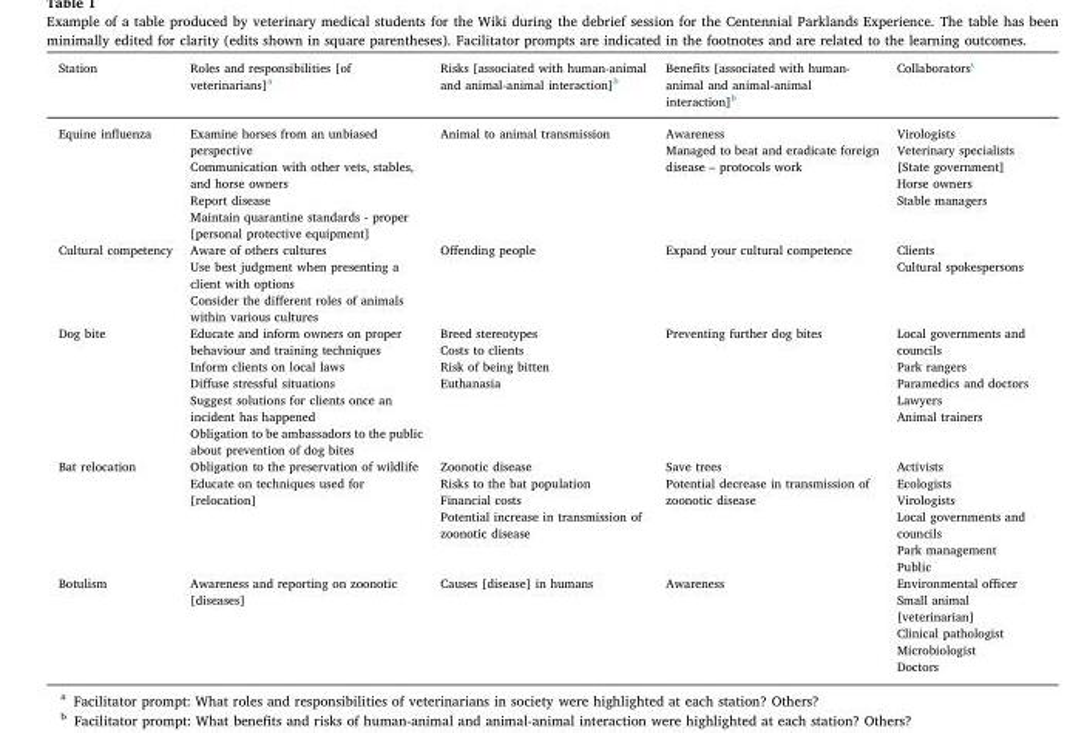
<table><thead><tr><td>Station</td><td>Roles and responsibilities [of veterinarians]<sup>a</sup></td><td>Risks [associated with human-animal and animal-animal interaction]<sup>b</sup></td><td>Benefits [associated with human- animal and animal-animal interaction]<sup>b</sup></td><td>Collaborators<sup>c</sup></td></tr></thead><tbody><tr><td>Equine influenza</td><td>Examine horses from an unbiased perspective Communication with other vets, stables, and horse owners Report disease Maintain quarantine standards - proper [personal protective equipment]</td><td>Animal to animal transmission</td><td>Awareness Managed to beat and eradicate foreign disease – protocols work</td><td>Virologists Veterinary specialists [State government] Horse owners Stable managers</td></tr><tr><td>Cultural competency</td><td>Aware of others cultures Use best judgment when presenting a client with options Consider the different roles of animals within various cultures</td><td>Offending people</td><td>Expand your cultural competence</td><td>Clients Cultural spokespersons</td></tr><tr><td>Dog bite</td><td>Educate and inform owners on proper behaviour and training techniques Inform clients on local laws Diffuse stressful situations Suggest solutions for clients once an incident has happened Obligation to be ambassadors to the public about prevention of dog bites</td><td>Breed stereotypes Costs to clients Risk of being bitten Euthanasia</td><td>Preventing further dog bites</td><td>Local governments and councils Park rangers Paramedics and doctors Lawyers Animal trainers</td></tr><tr><td>Bat relocation</td><td>Obligation to the preservation of wildlife Educate on techniques used for [relocation]</td><td>Zoonotic disease Risks to the bat population Financial costs Potential increase in transmission of zoonotic disease</td><td>Save trees Potential decrease in transmission of zoonotic disease</td><td>Activists Ecologists Virologists Local governments and councils Park management Public</td></tr><tr><td>Botulism</td><td>Awareness and reporting on zoonotic [diseases]</td><td>Causes [disease] in humans</td><td>Awareness</td><td>Environmental officer Small animal [veterinarian] Clinical pathologist Microbiologist Doctors</td></tr></tbody></table>